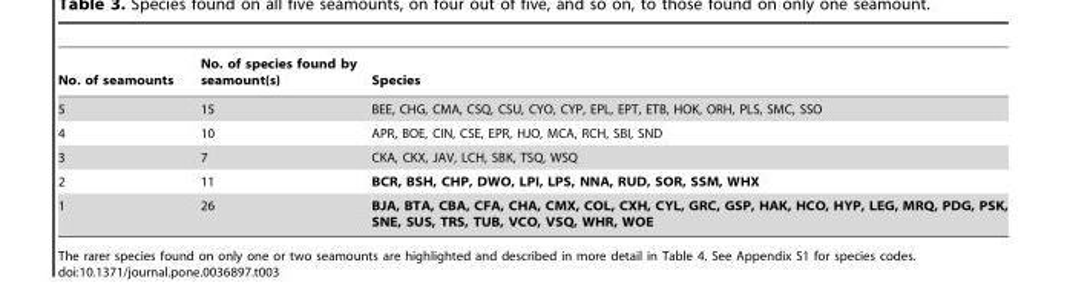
<table><thead><tr><td>No. of seamounts</td><td>No. of species found by seamount(s)</td><td>Species</td></tr></thead><tbody><tr><td>5</td><td>15</td><td>BEE, CHG, CMA, CSQ, CSU, CYO, CYP, EPL, EPT, ETB, HOK, ORH, PLS, SMC, SSO</td></tr><tr><td>4</td><td>10</td><td>APR, BOE, CIN, CSE, EPR, HJO, MCA, RCH, SBI, SND</td></tr><tr><td>3</td><td>7</td><td>CKA, CKX, JAV, LCH, SBK, TSQ, WSQ</td></tr><tr><td>2</td><td>11</td><td>BCR, BSH, CHP, DWO, LPI, LPS, NNA, RUD, SOR, SSM, WHX</td></tr><tr><td>1</td><td>26</td><td>BJA, BTA, CBA, CFA, CHA, CMX, COL, CXH, CYL, GRC, GSP, HAK, HCO, HYP, LEG, MRQ, PDG, PSK, SNE, SUS, TRS, TUB, VCO, VSQ, WHR, WOE</td></tr></tbody></table>